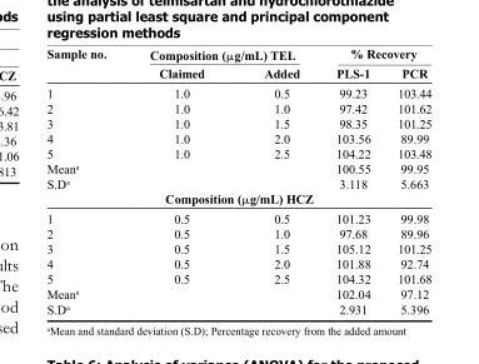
<table><thead><tr><td rowspan="2">Sample no.</td><td colspan="2">Composition (μg/mL) TEL</td><td colspan="2">% Recovery</td></tr><tr><td>Claimed</td><td>Added</td><td>PLS-1</td><td>PCR</td></tr></thead><tbody><tr><td>1</td><td>1.0</td><td>0.5</td><td>99.23</td><td>103.44</td></tr><tr><td>2</td><td>1.0</td><td>1.0</td><td>97.42</td><td>101.62</td></tr><tr><td>3</td><td>1.0</td><td>1.5</td><td>98.35</td><td>101.25</td></tr><tr><td>4</td><td>1.0</td><td>2.0</td><td>103.56</td><td>89.99</td></tr><tr><td>5</td><td>1.0</td><td>2.5</td><td>104.22</td><td>103.48</td></tr><tr><td>Mean<sup>a</sup></td><td></td><td></td><td>100.55</td><td>99.95</td></tr><tr><td>S.D<sup>a</sup></td><td></td><td></td><td>3.118</td><td>5.663</td></tr><tr><td colspan="5">Composition (μg/mL) HCZ</td></tr><tr><td>1</td><td>0.5</td><td>0.5</td><td>101.23</td><td>99.98</td></tr><tr><td>2</td><td>0.5</td><td>1.0</td><td>97.68</td><td>89.96</td></tr><tr><td>3</td><td>0.5</td><td>1.5</td><td>105.12</td><td>101.25</td></tr><tr><td>4</td><td>0.5</td><td>2.0</td><td>101.88</td><td>92.74</td></tr><tr><td>5</td><td>0.5</td><td>2.5</td><td>104.32</td><td>101.68</td></tr><tr><td>Mean<sup>a</sup></td><td></td><td></td><td>102.04</td><td>97.12</td></tr><tr><td>S.D<sup>a</sup></td><td></td><td></td><td>2.931</td><td>5.396</td></tr></tbody></table>